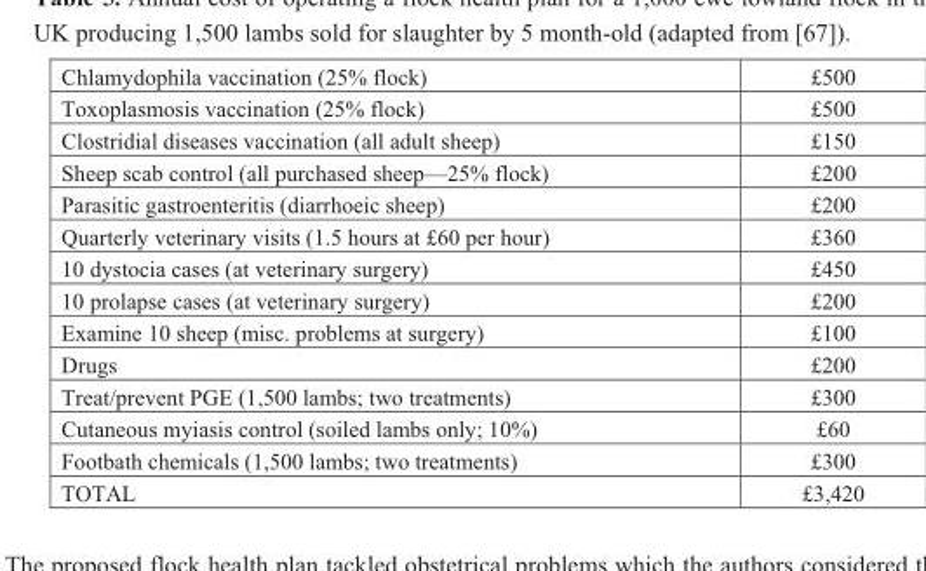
<table><tbody><tr><td>Chlamydophila vaccination (25% flock)</td><td>£500</td></tr><tr><td>Toxoplasmosis vaccination (25% flock)</td><td>£500</td></tr><tr><td>Clostridial diseases vaccination (all adult sheep)</td><td>£150</td></tr><tr><td>Sheep scab control (all purchased sheep—25% flock)</td><td>£200</td></tr><tr><td>Parasitic gastroenteritis (diarrhoeic sheep)</td><td>£200</td></tr><tr><td>Quarterly veterinary visits (1.5 hours at £60 per hour)</td><td>£360</td></tr><tr><td>10 dystocia cases (at veterinary surgery)</td><td>£450</td></tr><tr><td>10 prolapse cases (at veterinary surgery)</td><td>£200</td></tr><tr><td>Examine 10 sheep (misc. problems at surgery)</td><td>£100</td></tr><tr><td>Drugs</td><td>£200</td></tr><tr><td>Treat/prevent PGE (1,500 lambs; two treatments)</td><td>£300</td></tr><tr><td>Cutaneous myiasis control (soiled lambs only; 10%)</td><td>£60</td></tr><tr><td>Footbath chemicals (1,500 lambs; two treatments)</td><td>£300</td></tr><tr><td>TOTAL</td><td>£3,420</td></tr></tbody></table>